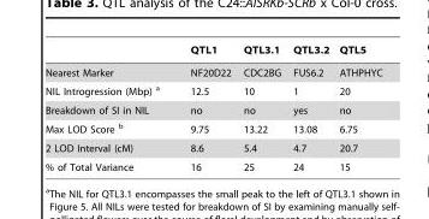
<table><thead><tr><td></td><td>QTL1</td><td>QTL3.1</td><td>QTL3.2</td><td>QTL5</td></tr></thead><tbody><tr><td>Nearest Marker</td><td>NF20D22</td><td>CDC2BG</td><td>FUS6.2</td><td>ATHPHYC</td></tr><tr><td>NIL Introgression (Mbp) a</td><td>12.5</td><td>10</td><td>1</td><td>20</td></tr><tr><td>Breakdown of SI in NIL</td><td>no</td><td>no</td><td>yes</td><td>no</td></tr><tr><td>Max LOD Score b</td><td>9.75</td><td>13.22</td><td>13.08</td><td>6.75</td></tr><tr><td>2 LOD Interval (cM)</td><td>8.6</td><td>5.4</td><td>4.7</td><td>20.7</td></tr><tr><td>% of Total Variance</td><td>16</td><td>25</td><td>24</td><td>15</td></tr></tbody></table>